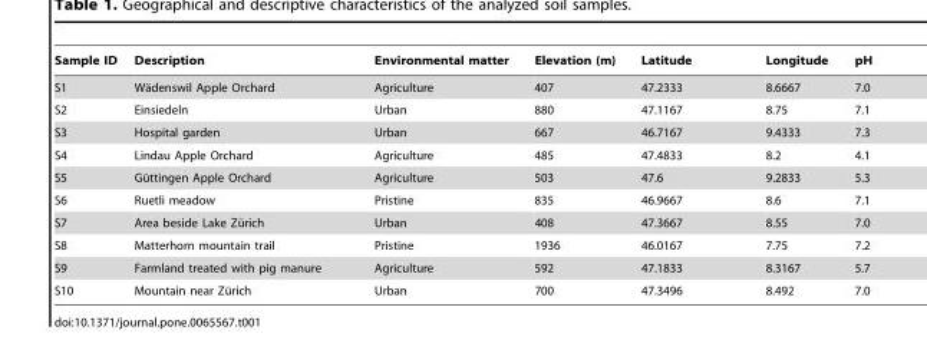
<table><thead><tr><td>Sample ID</td><td>Description</td><td>Environmental matter</td><td>Elevation (m)</td><td>Latitude</td><td>Longitude</td><td>pH</td></tr></thead><tbody><tr><td>S1</td><td>Wa¨denswil Apple Orchard</td><td>Agriculture</td><td>407</td><td>47.2333</td><td>8.6667</td><td>7.0</td></tr><tr><td>S2</td><td>Einsiedeln</td><td>Urban</td><td>880</td><td>47.1167</td><td>8.75</td><td>7.1</td></tr><tr><td>S3</td><td>Hospital garden</td><td>Urban</td><td>667</td><td>46.7167</td><td>9.4333</td><td>7.3</td></tr><tr><td>S4</td><td>Lindau Apple Orchard</td><td>Agriculture</td><td>485</td><td>47.4833</td><td>8.2</td><td>4.1</td></tr><tr><td>S5</td><td>Gu¨ttingen Apple Orchard</td><td>Agriculture</td><td>503</td><td>47.6</td><td>9.2833</td><td>5.3</td></tr><tr><td>S6</td><td>Ruetli meadow</td><td>Pristine</td><td>835</td><td>46.9667</td><td>8.6</td><td>7.1</td></tr><tr><td>S7</td><td>Area beside Lake Zu¨rich</td><td>Urban</td><td>408</td><td>47.3667</td><td>8.55</td><td>7.0</td></tr><tr><td>S8</td><td>Matterhorn mountain trail</td><td>Pristine</td><td>1936</td><td>46.0167</td><td>7.75</td><td>7.2</td></tr><tr><td>S9</td><td>Farmland treated with pig manure</td><td>Agriculture</td><td>592</td><td>47.1833</td><td>8.3167</td><td>5.7</td></tr><tr><td>S10</td><td>Mountain near Zu¨rich</td><td>Urban</td><td>700</td><td>47.3496</td><td>8.492</td><td>7.0</td></tr></tbody></table>